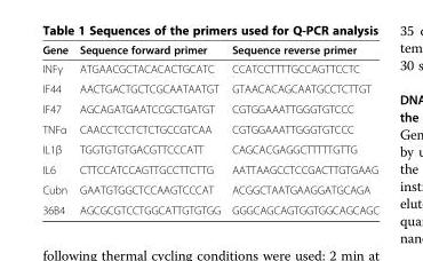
<table><thead><tr><td>Gene</td><td>Sequence forward primer</td><td>Sequence reverse primer</td></tr></thead><tbody><tr><td>INFγ</td><td>ATGAACGCTACACACTGCATC</td><td>CCATCCTTTTGCCAGTTCCTC</td></tr><tr><td>IF44</td><td>AACTGACTGCTCGCAATAATGT</td><td>GTAACACAGCAATGCCTCTTGT</td></tr><tr><td>IF47</td><td>AGCAGATGAATCCGCTGATGT</td><td>CGTGGAAATTGGGTGTCCC</td></tr><tr><td>TNFα</td><td>CAACCTCCTCTCTGCCGTCAA</td><td>CGTGGAAATTGGGTGTCCC</td></tr><tr><td>IL1β</td><td>TGGTGTGTGACGTTCCCATT</td><td>CAGCACGAGGCTTTTTGTTG</td></tr><tr><td>IL6</td><td>CTTCCATCCAGTTGCCTTCTTG</td><td>AATTAAGCCTCCGACTTGTGAAG</td></tr><tr><td>Cubn</td><td>GAATGTGGCTCCAAGTCCCAT</td><td>ACGGCTAATGAAGGATGCAGA</td></tr><tr><td>36B4</td><td>AGCGCGTCCTGGCATTGTGTGG</td><td>GGGCAGCAGTGGTGGCAGCAGC</td></tr></tbody></table>